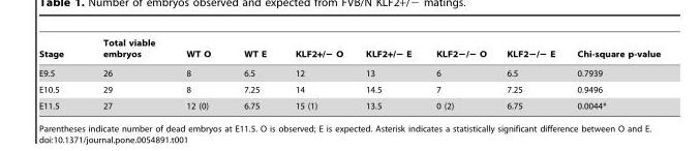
<table><thead><tr><td>Stage</td><td>Total viable embryos</td><td>WT O</td><td>WT E</td><td>KLF2+/− O</td><td>KLF2+/− E</td><td>KLF2−/− O</td><td>KLF2−/− E</td><td>Chi-square p-value</td></tr></thead><tbody><tr><td>E9.5</td><td>26</td><td>8</td><td>6.5</td><td>12</td><td>13</td><td>6</td><td>6.5</td><td>0.7939</td></tr><tr><td>E10.5</td><td>29</td><td>8</td><td>7.25</td><td>14</td><td>14.5</td><td>7</td><td>7.25</td><td>0.9496</td></tr><tr><td>E11.5</td><td>27</td><td>12 (0)</td><td>6.75</td><td>15 (1)</td><td>13.5</td><td>0 (2)</td><td>6.75</td><td>0.0044*</td></tr></tbody></table>